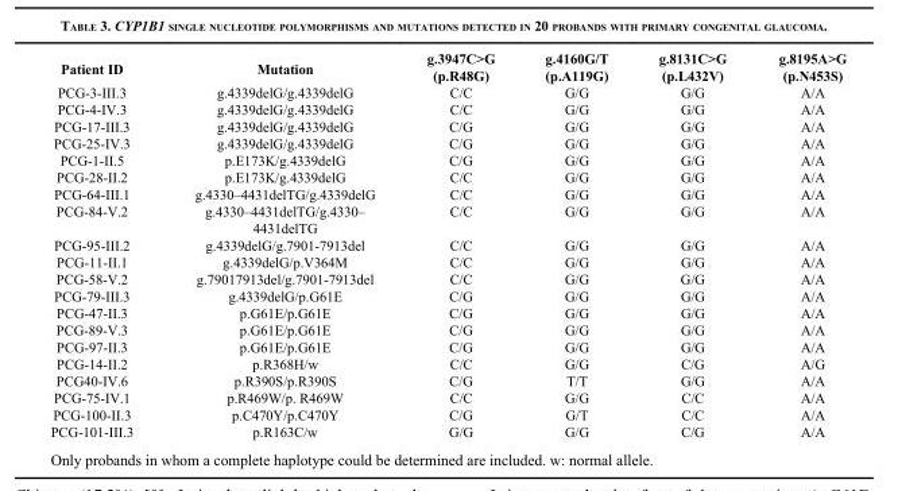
<table><thead><tr><td>Patient ID</td><td>Mutation</td><td>g.3947C&gt;G (p.R48G)</td><td>g.4160G/T (p.A119G)</td><td>g.8131C&gt;G (p.L432V)</td><td>g.8195A&gt;G (p.N453S)</td></tr></thead><tbody><tr><td>PCG-3-III.3</td><td>g.4339delG/g.4339delG</td><td>C/C</td><td>G/G</td><td>G/G</td><td>A/A</td></tr><tr><td>PCG-4-IV.3</td><td>g.4339delG/g.4339delG</td><td>C/C</td><td>G/G</td><td>G/G</td><td>A/A</td></tr><tr><td>PCG-17-III.3</td><td>g.4339delG/g.4339delG</td><td>C/G</td><td>G/G</td><td>G/G</td><td>A/A</td></tr><tr><td>PCG-25-IV.3</td><td>g.4339delG/g.4339delG</td><td>C/G</td><td>G/G</td><td>G/G</td><td>A/A</td></tr><tr><td>PCG-1-II.5</td><td>p.E173K/g.4339delG</td><td>C/G</td><td>G/G</td><td>G/G</td><td>A/A</td></tr><tr><td>PCG-28-II.2</td><td>p.E173K/g.4339delG</td><td>C/C</td><td>G/G</td><td>G/G</td><td>A/A</td></tr><tr><td>PCG-64-III.1</td><td>g.4330–4431delTG/g.4339delG</td><td>C/C</td><td>G/G</td><td>G/G</td><td>A/A</td></tr><tr><td>PCG-84-V.2</td><td>g.4330–4431delTG/g.4330– 4431delTG</td><td>C/C</td><td>G/G</td><td>G/G</td><td>A/A</td></tr><tr><td>PCG-95-III.2</td><td>g.4339delG/g.7901-7913del</td><td>C/C</td><td>G/G</td><td>G/G</td><td>A/A</td></tr><tr><td>PCG-11-II.1</td><td>g.4339delG/p.V364M</td><td>C/C</td><td>G/G</td><td>G/G</td><td>A/A</td></tr><tr><td>PCG-58-V.2</td><td>g.79017913del/g.7901-7913del</td><td>C/C</td><td>G/G</td><td>G/G</td><td>A/A</td></tr><tr><td>PCG-79-III.3</td><td>g.4339delG/p.G61E</td><td>C/G</td><td>G/G</td><td>G/G</td><td>A/A</td></tr><tr><td>PCG-47-II.3</td><td>p.G61E/p.G61E</td><td>C/G</td><td>G/G</td><td>G/G</td><td>A/A</td></tr><tr><td>PCG-89-V.3</td><td>p.G61E/p.G61E</td><td>C/G</td><td>G/G</td><td>G/G</td><td>A/A</td></tr><tr><td>PCG-97-II.3</td><td>p.G61E/p.G61E</td><td>C/G</td><td>G/G</td><td>G/G</td><td>A/A</td></tr><tr><td>PCG-14-II.2</td><td>p.R368H/w</td><td>C/C</td><td>G/G</td><td>C/G</td><td>A/G</td></tr><tr><td>PCG40-IV.6</td><td>p.R390S/p.R390S</td><td>C/G</td><td>T/T</td><td>G/G</td><td>A/A</td></tr><tr><td>PCG-75-IV.1</td><td>p.R469W/p. R469W</td><td>C/C</td><td>G/G</td><td>C/C</td><td>A/A</td></tr><tr><td>PCG-100-II.3</td><td>p.C470Y/p.C470Y</td><td>C/G</td><td>G/T</td><td>C/C</td><td>A/A</td></tr><tr><td>PCG-101-III.3</td><td>p.R163C/w</td><td>G/G</td><td>G/G</td><td>C/G</td><td>A/A</td></tr></tbody></table>